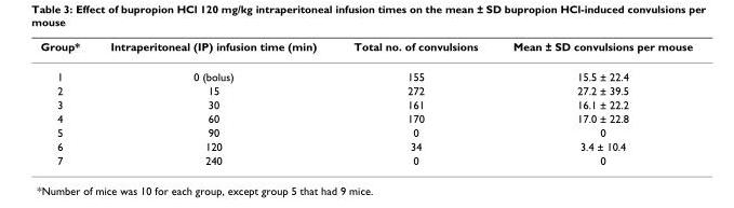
<table><thead><tr><td>Group*</td><td>Intraperitoneal (IP) infusion time (min)</td><td>Total no. of convulsions</td><td>Mean ± SD convulsions per mouse</td></tr></thead><tbody><tr><td>1</td><td>0 (bolus)</td><td>155</td><td>15.5 ± 22.4</td></tr><tr><td>2</td><td>15</td><td>272</td><td>27.2 ± 39.5</td></tr><tr><td>3</td><td>30</td><td>161</td><td>16.1 ± 22.2</td></tr><tr><td>4</td><td>60</td><td>170</td><td>17.0 ± 22.8</td></tr><tr><td>5</td><td>90</td><td>0</td><td>0</td></tr><tr><td>6</td><td>120</td><td>34</td><td>3.4 ± 10.4</td></tr><tr><td>7</td><td>240</td><td>0</td><td>0</td></tr></tbody></table>